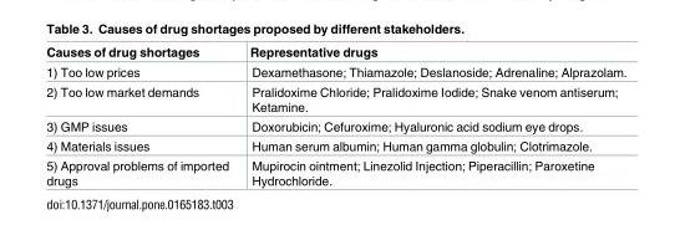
<table><thead><tr><td>Causes of drug shortages</td><td>Representative drugs</td></tr></thead><tbody><tr><td>1) Too low prices</td><td>Dexamethasone; Thiamazole; Deslanoside; Adrenaline; Alprazolam.</td></tr><tr><td>2) Too low market demands</td><td>Pralidoxime Chloride; Pralidoxime Iodide; Snake venom antiserum; Ketamine.</td></tr><tr><td>3) GMP issues</td><td>Doxorubicin; Cefuroxime; Hyaluronic acid sodium eye drops.</td></tr><tr><td>4) Materials issues</td><td>Human serum albumin; Human gamma globulin; Clotrimazole.</td></tr><tr><td>5) Approval problems of imported drugs</td><td>Mupirocin ointment; Linezolid Injection; Piperacillin; Paroxetine Hydrochloride.</td></tr></tbody></table>